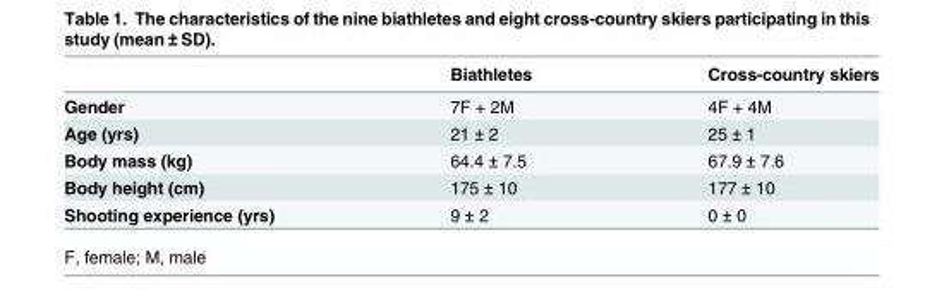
<table><thead><tr><td></td><td>Biathletes</td><td>Cross-country skiers</td></tr></thead><tbody><tr><td>Gender</td><td>7F + 2M</td><td>4F + 4M</td></tr><tr><td>Age (yrs)</td><td>21 ± 2</td><td>25 ± 1</td></tr><tr><td>Body mass (kg)</td><td>64.4 ± 7.5</td><td>67.9 ± 7.6</td></tr><tr><td>Body height (cm)</td><td>175 ± 10</td><td>177 ± 10</td></tr><tr><td>Shooting experience (yrs)</td><td>9 ± 2</td><td>0 ± 0</td></tr></tbody></table>